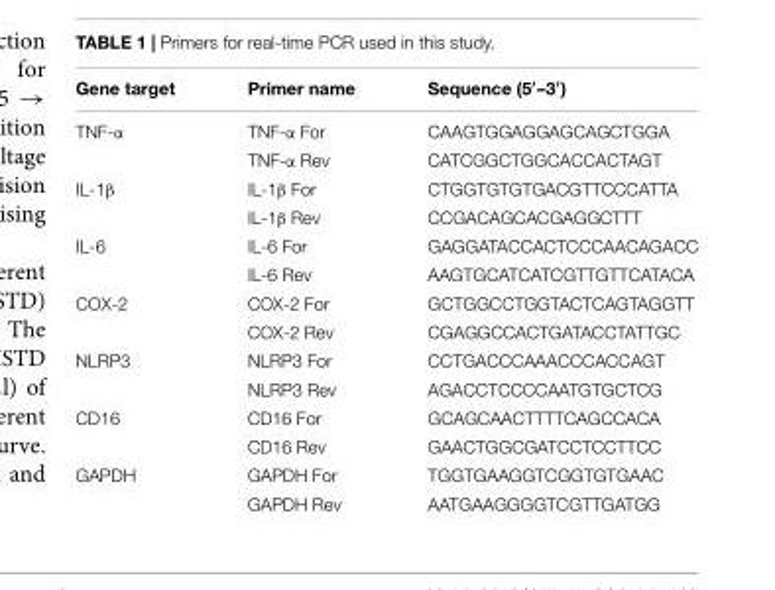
<table><thead><tr><td>Gene target</td><td>Primer name</td><td>Sequence (5′–3′)</td></tr></thead><tbody><tr><td rowspan="2">TNF-α</td><td>TNF-α For</td><td>CAAGTGGAGGAGCAGCTGGA</td></tr><tr><td>TNF-α Rev</td><td>CATCGGCTGGCACCACTAGT</td></tr><tr><td rowspan="2">IL-1β</td><td>IL-1β For</td><td>CTGGTGTGTGACGTTCCCATTA</td></tr><tr><td>IL-1β Rev</td><td>CCGACAGCACGAGGCTTT</td></tr><tr><td rowspan="2">IL-6</td><td>IL-6 For</td><td>GAGGATACCACTCCCAACAGACC</td></tr><tr><td>IL-6 Rev</td><td>AAGTGCATCATCGTTGTTCATACA</td></tr><tr><td rowspan="2">COX-2</td><td>COX-2 For</td><td>GCTGGCCTGGTACTCAGTAGGTT</td></tr><tr><td>COX-2 Rev</td><td>CGAGGCCACTGATACCTATTGC</td></tr><tr><td rowspan="2">NLRP3</td><td>NLRP3 For</td><td>CCTGACCCAAACCCACCAGT</td></tr><tr><td>NLRP3 Rev</td><td>AGACCTCCCCAATGTGCTCG</td></tr><tr><td rowspan="2">CD16</td><td>CD16 For</td><td>GCAGCAACTTTTCAGCCACA</td></tr><tr><td>CD16 Rev</td><td>GAACTGGCGATCCTCCTTCC</td></tr><tr><td rowspan="2">GAPDH</td><td>GAPDH For</td><td>TGGTGAAGGTCGGTGTGAAC</td></tr><tr><td>GAPDH Rev</td><td>AATGAAGGGGTCGTTGATGG</td></tr></tbody></table>